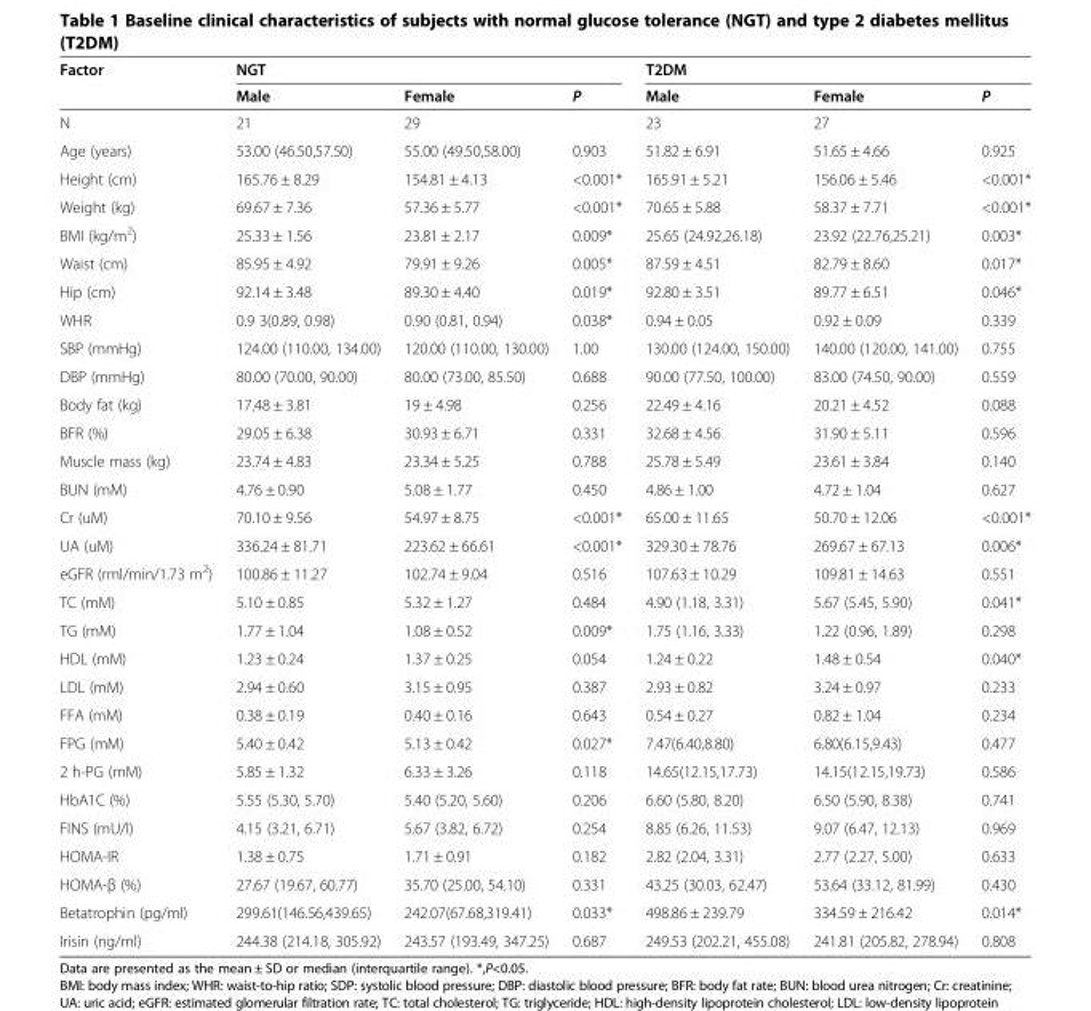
<table><thead><tr><td rowspan="2">Factor</td><td colspan="3">NGT</td><td colspan="3">T2DM</td></tr><tr><td>Male</td><td>Female</td><td>P</td><td>Male</td><td>Female</td><td>P</td></tr></thead><tbody><tr><td>N</td><td>21</td><td>29</td><td></td><td>23</td><td>27</td><td></td></tr><tr><td>Age (years)</td><td>53.00 (46.50,57.50)</td><td>55.00 (49.50,58.00)</td><td>0.903</td><td>51.82 ± 6.91</td><td>51.65 ± 4.66</td><td>0.925</td></tr><tr><td>Height (cm)</td><td>165.76 ± 8.29</td><td>154.81 ± 4.13</td><td>&lt;0.001*</td><td>165.91 ± 5.21</td><td>156.06 ± 5.46</td><td>&lt;0.001*</td></tr><tr><td>Weight (kg)</td><td>69.67 ± 7.36</td><td>57.36 ± 5.77</td><td>&lt;0.001*</td><td>70.65 ± 5.88</td><td>58.37 ± 7.71</td><td>&lt;0.001*</td></tr><tr><td>BMI (kg/m<sup>2</sup>)</td><td>25.33 ± 1.56</td><td>23.81 ± 2.17</td><td>0.009*</td><td>25.65 (24.92,26.18)</td><td>23.92 (22.76,25.21)</td><td>0.003*</td></tr><tr><td>Waist (cm)</td><td>85.95 ± 4.92</td><td>79.91 ± 9.26</td><td>0.005*</td><td>87.59 ± 4.51</td><td>82.79 ± 8.60</td><td>0.017*</td></tr><tr><td>Hip (cm)</td><td>92.14 ± 3.48</td><td>89.30 ± 4.40</td><td>0.019*</td><td>92.80 ± 3.51</td><td>89.77 ± 6.51</td><td>0.046*</td></tr><tr><td>WHR</td><td>0.9 3(0.89, 0.98)</td><td>0.90 (0.81, 0.94)</td><td>0.038*</td><td>0.94 ± 0.05</td><td>0.92 ± 0.09</td><td>0.339</td></tr><tr><td>SBP (mmHg)</td><td>124.00 (110.00, 134.00)</td><td>120.00 (110.00, 130.00)</td><td>1.00</td><td>130.00 (124.00, 150.00)</td><td>140.00 (120.00, 141.00)</td><td>0.755</td></tr><tr><td>DBP (mmHg)</td><td>80.00 (70.00, 90.00)</td><td>80.00 (73.00, 85.50)</td><td>0.688</td><td>90.00 (77.50, 100.00)</td><td>83.00 (74.50, 90.00)</td><td>0.559</td></tr><tr><td>Body fat (kg)</td><td>17.48 ± 3.81</td><td>19 ± 4.98</td><td>0.256</td><td>22.49 ± 4.16</td><td>20.21 ± 4.52</td><td>0.088</td></tr><tr><td>BFR (%)</td><td>29.05 ± 6.38</td><td>30.93 ± 6.71</td><td>0.331</td><td>32.68 ± 4.56</td><td>31.90 ± 5.11</td><td>0.596</td></tr><tr><td>Muscle mass (kg)</td><td>23.74 ± 4.83</td><td>23.34 ± 5.25</td><td>0.788</td><td>25.78 ± 5.49</td><td>23.61 ± 3.84</td><td>0.140</td></tr><tr><td>BUN (mM)</td><td>4.76 ± 0.90</td><td>5.08 ± 1.77</td><td>0.450</td><td>4.86 ± 1.00</td><td>4.72 ± 1.04</td><td>0.627</td></tr><tr><td>Cr (uM)</td><td>70.10 ± 9.56</td><td>54.97 ± 8.75</td><td>&lt;0.001*</td><td>65.00 ± 11.65</td><td>50.70 ± 12.06</td><td>&lt;0.001*</td></tr><tr><td>UA (uM)</td><td>336.24 ± 81.71</td><td>223.62 ± 66.61</td><td>&lt;0.001*</td><td>329.30 ± 78.76</td><td>269.67 ± 67.13</td><td>0.006*</td></tr><tr><td>eGFR (rml/min/1.73 m<sup>2</sup>)</td><td>100.86 ± 11.27</td><td>102.74 ± 9.04</td><td>0.516</td><td>107.63 ± 10.29</td><td>109.81 ± 14.63</td><td>0.551</td></tr><tr><td>TC (mM)</td><td>5.10 ± 0.85</td><td>5.32 ± 1.27</td><td>0.484</td><td>4.90 (1.18, 3.31)</td><td>5.67 (5.45, 5.90)</td><td>0.041*</td></tr><tr><td>TG (mM)</td><td>1.77 ± 1.04</td><td>1.08 ± 0.52</td><td>0.009*</td><td>1.75 (1.16, 3.33)</td><td>1.22 (0.96, 1.89)</td><td>0.298</td></tr><tr><td>HDL (mM)</td><td>1.23 ± 0.24</td><td>1.37 ± 0.25</td><td>0.054</td><td>1.24 ± 0.22</td><td>1.48 ± 0.54</td><td>0.040*</td></tr><tr><td>LDL (mM)</td><td>2.94 ± 0.60</td><td>3.15 ± 0.95</td><td>0.387</td><td>2.93 ± 0.82</td><td>3.24 ± 0.97</td><td>0.233</td></tr><tr><td>FFA (mM)</td><td>0.38 ± 0.19</td><td>0.40 ± 0.16</td><td>0.643</td><td>0.54 ± 0.27</td><td>0.82 ± 1.04</td><td>0.234</td></tr><tr><td>FPG (mM)</td><td>5.40 ± 0.42</td><td>5.13 ± 0.42</td><td>0.027*</td><td>7.47(6.40,8.80)</td><td>6.80(6.15,9.43)</td><td>0.477</td></tr><tr><td>2 h-PG (mM)</td><td>5.85 ± 1.32</td><td>6.33 ± 3.26</td><td>0.118</td><td>14.65(12.15,17.73)</td><td>14.15(12.15,19.73)</td><td>0.586</td></tr><tr><td>HbA1C (%)</td><td>5.55 (5.30, 5.70)</td><td>5.40 (5.20, 5.60)</td><td>0.206</td><td>6.60 (5.80, 8.20)</td><td>6.50 (5.90, 8.38)</td><td>0.741</td></tr><tr><td>FINS (mU/l)</td><td>4.15 (3.21, 6.71)</td><td>5.67 (3.82, 6.72)</td><td>0.254</td><td>8.85 (6.26, 11.53)</td><td>9.07 (6.47, 12.13)</td><td>0.969</td></tr><tr><td>HOMA-IR</td><td>1.38 ± 0.75</td><td>1.71 ± 0.91</td><td>0.182</td><td>2.82 (2.04, 3.31)</td><td>2.77 (2.27, 5.00)</td><td>0.633</td></tr><tr><td>HOMA-β (%)</td><td>27.67 (19.67, 60.77)</td><td>35.70 (25.00, 54.10)</td><td>0.331</td><td>43.25 (30.03, 62.47)</td><td>53.64 (33.12, 81.99)</td><td>0.430</td></tr><tr><td>Betatrophin (pg/ml)</td><td>299.61(146.56,439.65)</td><td>242.07(67.68,319.41)</td><td>0.033*</td><td>498.86 ± 239.79</td><td>334.59 ± 216.42</td><td>0.014*</td></tr><tr><td>Irisin (ng/ml)</td><td>244.38 (214.18, 305.92)</td><td>243.57 (193.49, 347.25)</td><td>0.687</td><td>249.53 (202.21, 455.08)</td><td>241.81 (205.82, 278.94)</td><td>0.808</td></tr></tbody></table>